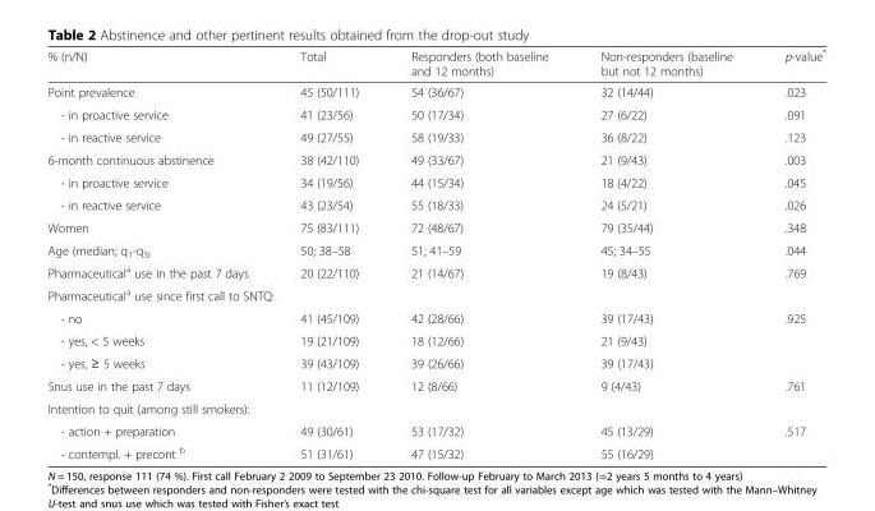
<table><thead><tr><td>% (n/N)</td><td>Total</td><td>Responders (both baseline and 12 months)</td><td>Non-responders (baseline but not 12 months)</td><td>p-value*</td></tr></thead><tbody><tr><td>Point prevalence</td><td>45 (50/111)</td><td>54 (36/67)</td><td>32 (14/44)</td><td>.023</td></tr><tr><td>- in proactive service</td><td>41 (23/56)</td><td>50 (17/34)</td><td>27 (6/22)</td><td>.091</td></tr><tr><td>- in reactive service</td><td>49 (27/55)</td><td>58 (19/33)</td><td>36 (8/22)</td><td>.123</td></tr><tr><td>6-month continuous abstinence</td><td>38 (42/110)</td><td>49 (33/67)</td><td>21 (9/43)</td><td>.003</td></tr><tr><td>- in proactive service</td><td>34 (19/56)</td><td>44 (15/34)</td><td>18 (4/22)</td><td>.045</td></tr><tr><td>- in reactive service</td><td>43 (23/54)</td><td>55 (18/33)</td><td>24 (5/21)</td><td>.026</td></tr><tr><td>Women</td><td>75 (83/111)</td><td>72 (48/67)</td><td>79 (35/44)</td><td>.348</td></tr><tr><td>Age (median; q<sub>1</sub>-q<sub>3)</sub></td><td>50; 38–58</td><td>51; 41–59</td><td>45; 34–55</td><td>.044</td></tr><tr><td>Pharmaceutical<sup>a</sup> use in the past 7 days</td><td>20 (22/110)</td><td>21 (14/67)</td><td>19 (8/43)</td><td>.769</td></tr><tr><td colspan="5">Pharmaceutical<sup>a</sup> use since first call to SNTQ:</td></tr><tr><td>- no</td><td>41 (45/109)</td><td>42 (28/66)</td><td>39 (17/43)</td><td rowspan="3">.925</td></tr><tr><td>- yes, &lt; 5 weeks</td><td>19 (21/109)</td><td>18 (12/66)</td><td>21 (9/43)</td></tr><tr><td>- yes, ≥ 5 weeks</td><td>39 (43/109)</td><td>39 (26/66)</td><td>39 (17/43)</td></tr><tr><td>Snus use in the past 7 days</td><td>11 (12/109)</td><td>12 (8/66)</td><td>9 (4/43)</td><td>.761</td></tr><tr><td colspan="5">Intention to quit (among still smokers):</td></tr><tr><td>- action + preparation</td><td>49 (30/61)</td><td>53 (17/32)</td><td>45 (13/29)</td><td rowspan="2">.517</td></tr><tr><td>- contempl. + precont <sup>b</sup></td><td>51 (31/61)</td><td>47 (15/32)</td><td>55 (16/29)</td></tr></tbody></table>